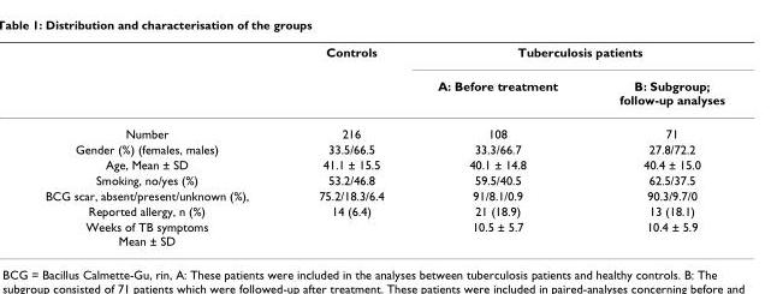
<table><thead><tr><td rowspan="2"></td><td rowspan="2">Controls</td><td colspan="2">Tuberculosis patients</td></tr><tr><td>A: Before treatment</td><td>B: Subgroup; follow-up analyses</td></tr></thead><tbody><tr><td>Number</td><td>216</td><td>108</td><td>71</td></tr><tr><td>Gender (%) (females, males)</td><td>33.5/66.5</td><td>33.3/66.7</td><td>27.8/72.2</td></tr><tr><td>Age, Mean ± SD</td><td>41.1 ± 15.5</td><td>40.1 ± 14.8</td><td>40.4 ± 15.0</td></tr><tr><td>Smoking, no/yes (%)</td><td>53.2/46.8</td><td>59.5/40.5</td><td>62.5/37.5</td></tr><tr><td>BCG scar, absent/present/unknown (%),</td><td>75.2/18.3/6.4</td><td>91/8.1/0.9</td><td>90.3/9.7/0</td></tr><tr><td>Reported allergy, n (%)</td><td>14 (6.4)</td><td>21 (18.9)</td><td>13 (18.1)</td></tr><tr><td>Weeks of TB symptoms Mean ± SD</td><td></td><td>10.5 ± 5.7</td><td>10.4 ± 5.9</td></tr></tbody></table>